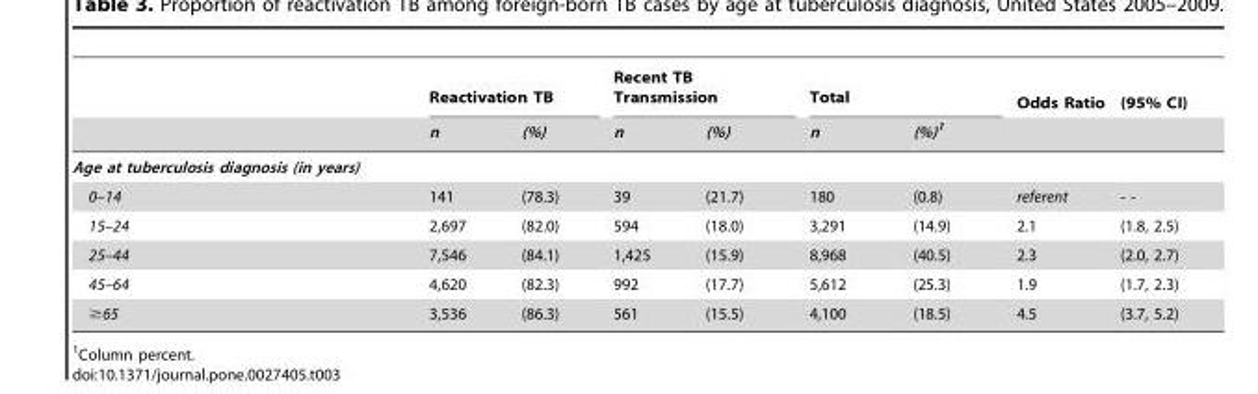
<table><thead><tr><td rowspan="2"></td><td colspan="2">Reactivation TB</td><td colspan="2">Recent TB Transmission</td><td colspan="2">Total</td><td rowspan="2">Odds Ratio</td><td rowspan="2">(95% CI)</td></tr><tr><td>n</td><td>(%)</td><td>n</td><td>(%)</td><td>n</td><td>(%)1</td></tr></thead><tbody><tr><td colspan="9">Age at tuberculosis diagnosis (in years)</td></tr><tr><td>0–14</td><td>141</td><td>(78.3)</td><td>39</td><td>(21.7)</td><td>180</td><td>(0.8)</td><td>referent</td><td>- -</td></tr><tr><td>15–24</td><td>2,697</td><td>(82.0)</td><td>594</td><td>(18.0)</td><td>3,291</td><td>(14.9)</td><td>2.1</td><td>(1.8, 2.5)</td></tr><tr><td>25–44</td><td>7,546</td><td>(84.1)</td><td>1,425</td><td>(15.9)</td><td>8,968</td><td>(40.5)</td><td>2.3</td><td>(2.0, 2.7)</td></tr><tr><td>45–64</td><td>4,620</td><td>(82.3)</td><td>992</td><td>(17.7)</td><td>5,612</td><td>(25.3)</td><td>1.9</td><td>(1.7, 2.3)</td></tr><tr><td>≥65</td><td>3,536</td><td>(86.3)</td><td>561</td><td>(15.5)</td><td>4,100</td><td>(18.5)</td><td>4.5</td><td>(3.7, 5.2)</td></tr></tbody></table>